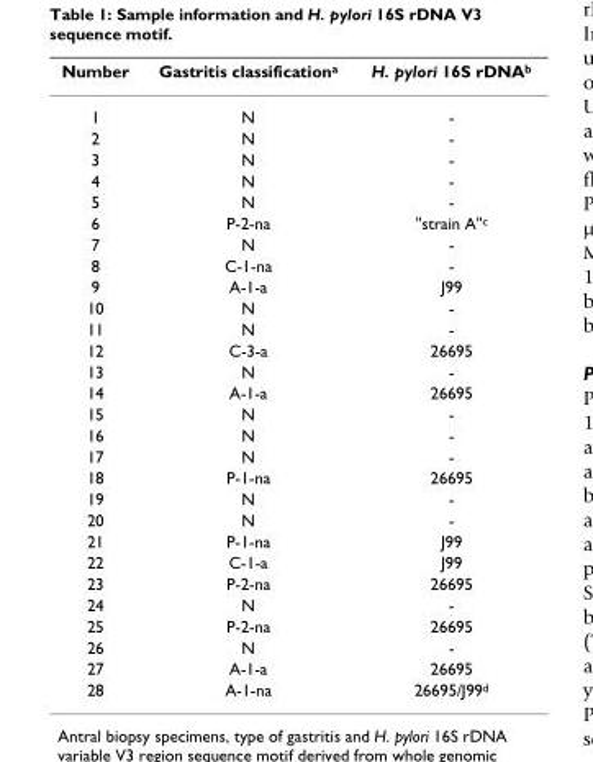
<table><thead><tr><td>Number</td><td>Gastritis classification<sup>a</sup></td><td>H. pylori 16S rDNA<sup>b</sup></td></tr></thead><tbody><tr><td>1</td><td>N</td><td>-</td></tr><tr><td>2</td><td>N</td><td>-</td></tr><tr><td>3</td><td>N</td><td>-</td></tr><tr><td>4</td><td>N</td><td>-</td></tr><tr><td>5</td><td>N</td><td>-</td></tr><tr><td>6</td><td>P-2-na</td><td>&quot;strain A&quot;<sup>c</sup></td></tr><tr><td>7</td><td>N</td><td>-</td></tr><tr><td>8</td><td>C-1-na</td><td>-</td></tr><tr><td>9</td><td>A-1-a</td><td>J99</td></tr><tr><td>10</td><td>N</td><td>-</td></tr><tr><td>11</td><td>N</td><td>-</td></tr><tr><td>12</td><td>C-3-a</td><td>26695</td></tr><tr><td>13</td><td>N</td><td>-</td></tr><tr><td>14</td><td>A-1-a</td><td>26695</td></tr><tr><td>15</td><td>N</td><td>-</td></tr><tr><td>16</td><td>N</td><td>-</td></tr><tr><td>17</td><td>N</td><td>-</td></tr><tr><td>18</td><td>P-1-na</td><td>26695</td></tr><tr><td>19</td><td>N</td><td>-</td></tr><tr><td>20</td><td>N</td><td>-</td></tr><tr><td>21</td><td>P-1-na</td><td>J99</td></tr><tr><td>22</td><td>C-1-a</td><td>J99</td></tr><tr><td>23</td><td>P-2-na</td><td>26695</td></tr><tr><td>24</td><td>N</td><td>-</td></tr><tr><td>25</td><td>P-2-na</td><td>26695</td></tr><tr><td>26</td><td>N</td><td>-</td></tr><tr><td>27</td><td>A-1-a</td><td>26695</td></tr><tr><td>28</td><td>A-1-na</td><td>26695/J99<sup>d</sup></td></tr></tbody></table>